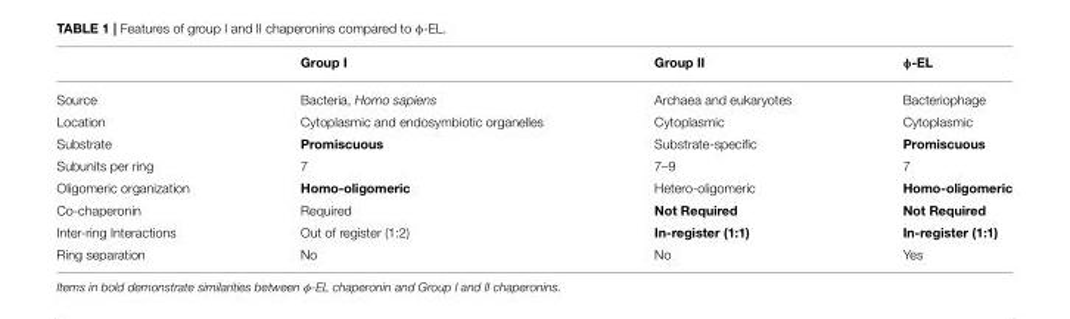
<table><thead><tr><td></td><td>Group I</td><td>Group II</td><td>φ-EL</td></tr></thead><tbody><tr><td>Source</td><td>Bacteria, Homo sapiens</td><td>Archaea and eukaryotes</td><td>Bacteriophage</td></tr><tr><td>Location</td><td>Cytoplasmic and endosymbiotic organelles</td><td>Cytoplasmic</td><td>Cytoplasmic</td></tr><tr><td>Substrate</td><td>Promiscuous</td><td>Substrate-specific</td><td>Promiscuous</td></tr><tr><td>Subunits per ring</td><td>7</td><td>7–9</td><td>7</td></tr><tr><td>Oligomeric organization</td><td>Homo-oligomeric</td><td>Hetero-oligomeric</td><td>Homo-oligomeric</td></tr><tr><td>Co-chaperonin</td><td>Required</td><td>Not Required</td><td>Not Required</td></tr><tr><td>Inter-ring Interactions</td><td>Out of register (1:2)</td><td>In-register (1:1)</td><td>In-register (1:1)</td></tr><tr><td>Ring separation</td><td>No</td><td>No</td><td>Yes</td></tr></tbody></table>